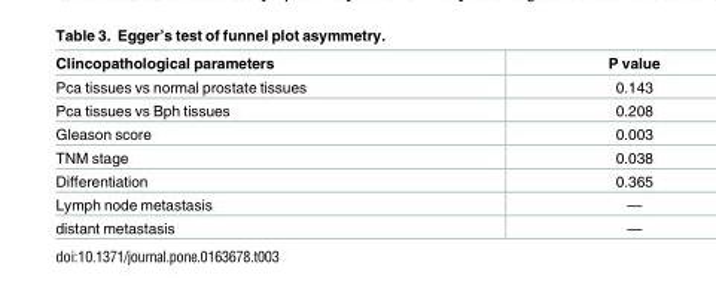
<table><thead><tr><td>Clincopathological parameters</td><td>P value</td></tr></thead><tbody><tr><td>Pca tissues vs normal prostate tissues</td><td>0.143</td></tr><tr><td>Pca tissues vs Bph tissues</td><td>0.208</td></tr><tr><td>Gleason score</td><td>0.003</td></tr><tr><td>TNM stage</td><td>0.038</td></tr><tr><td>Differentiation</td><td>0.365</td></tr><tr><td>Lymph node metastasis</td><td>—</td></tr><tr><td>distant metastasis</td><td>—</td></tr></tbody></table>